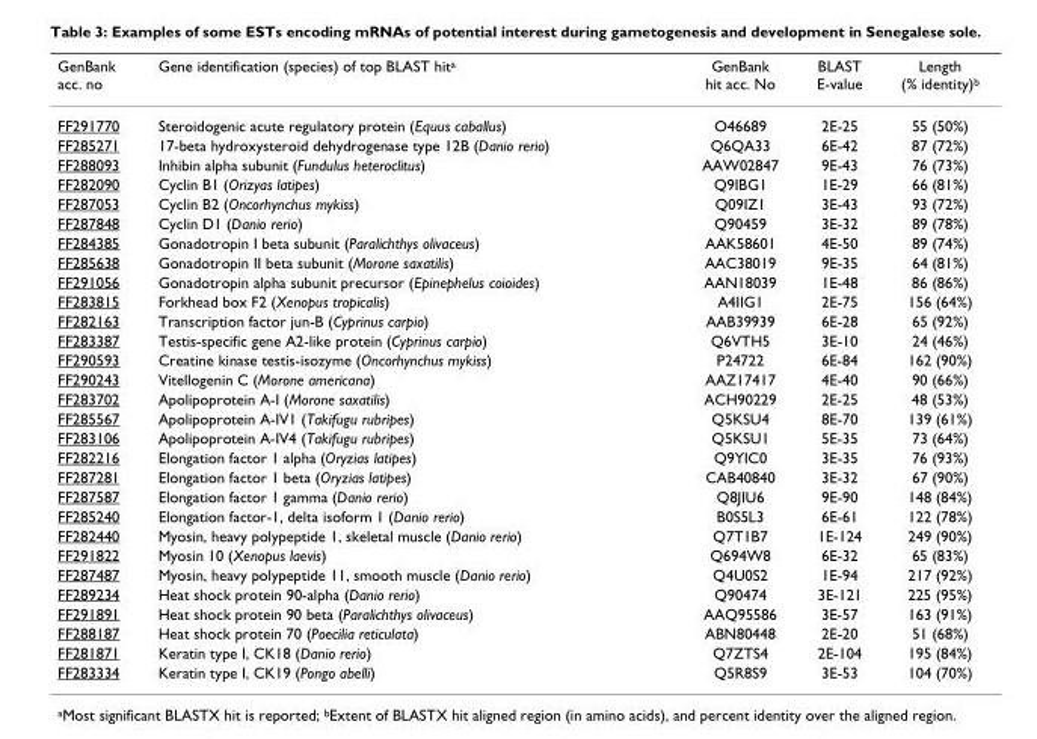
<table><thead><tr><td>GenBank acc. no</td><td>Gene identification (species) of top BLAST hit<sup>a</sup></td><td>GenBank hit acc. No</td><td>BLAST E-value</td><td>Length (% identity)<sup>b</sup></td></tr></thead><tbody><tr><td>FF291770</td><td>Steroidogenic acute regulatory protein (Equus caballus)</td><td>O46689</td><td>2E-25</td><td>55 (50%)</td></tr><tr><td>FF285271</td><td>17-beta hydroxysteroid dehydrogenase type 12B (Danio rerio)</td><td>Q6QA33</td><td>6E-42</td><td>87 (72%)</td></tr><tr><td>FF288093</td><td>Inhibin alpha subunit (Fundulus heteroclitus)</td><td>AAW02847</td><td>9E-43</td><td>76 (73%)</td></tr><tr><td>FF282090</td><td>Cyclin B1 (Orizyas latipes)</td><td>Q9IBG1</td><td>1E-29</td><td>66 (81%)</td></tr><tr><td>FF287053</td><td>Cyclin B2 (Oncorhynchus mykiss)</td><td>Q09IZ1</td><td>3E-43</td><td>93 (72%)</td></tr><tr><td>FF287848</td><td>Cyclin D1 (Danio rerio)</td><td>Q90459</td><td>3E-32</td><td>89 (78%)</td></tr><tr><td>FF284385</td><td>Gonadotropin I beta subunit (Paralichthys olivaceus)</td><td>AAK58601</td><td>4E-50</td><td>89 (74%)</td></tr><tr><td>FF285638</td><td>Gonadotropin II beta subunit (Morone saxatilis)</td><td>AAC38019</td><td>9E-35</td><td>64 (81%)</td></tr><tr><td>FF291056</td><td>Gonadotropin alpha subunit precursor (Epinephelus coioides)</td><td>AAN18039</td><td>1E-48</td><td>86 (86%)</td></tr><tr><td>FF283815</td><td>Forkhead box F2 (Xenopus tropicalis)</td><td>A4IIG1</td><td>2E-75</td><td>156 (64%)</td></tr><tr><td>FF282163</td><td>Transcription factor jun-B (Cyprinus carpio)</td><td>AAB39939</td><td>6E-28</td><td>65 (92%)</td></tr><tr><td>FF283387</td><td>Testis-specific gene A2-like protein (Cyprinus carpio)</td><td>Q6VTH5</td><td>3E-10</td><td>24 (46%)</td></tr><tr><td>FF290593</td><td>Creatine kinase testis-isozyme (Oncorhynchus mykiss)</td><td>P24722</td><td>6E-84</td><td>162 (90%)</td></tr><tr><td>FF290243</td><td>Vitellogenin C (Morone americana)</td><td>AAZ17417</td><td>4E-40</td><td>90 (66%)</td></tr><tr><td>FF283702</td><td>Apolipoprotein A-I (Morone saxatilis)</td><td>ACH90229</td><td>2E-25</td><td>48 (53%)</td></tr><tr><td>FF285567</td><td>Apolipoprotein A-IV1 (Takifugu rubripes)</td><td>Q5KSU4</td><td>8E-70</td><td>139 (61%)</td></tr><tr><td>FF283106</td><td>Apolipoprotein A-IV4 (Takifugu rubripes)</td><td>Q5KSU1</td><td>5E-35</td><td>73 (64%)</td></tr><tr><td>FF282216</td><td>Elongation factor 1 alpha (Oryzias latipes)</td><td>Q9YIC0</td><td>3E-35</td><td>76 (93%)</td></tr><tr><td>FF287281</td><td>Elongation factor 1 beta (Oryzias latipes)</td><td>CAB40840</td><td>3E-32</td><td>67 (90%)</td></tr><tr><td>FF287587</td><td>Elongation factor 1 gamma (Danio rerio)</td><td>Q8JIU6</td><td>9E-90</td><td>148 (84%)</td></tr><tr><td>FF285240</td><td>Elongation factor-1, delta isoform 1 (Danio rerio)</td><td>B0S5L3</td><td>6E-61</td><td>122 (78%)</td></tr><tr><td>FF282440</td><td>Myosin, heavy polypeptide 1, skeletal muscle (Danio rerio)</td><td>Q7T1B7</td><td>1E-124</td><td>249 (90%)</td></tr><tr><td>FF291822</td><td>Myosin 10 (Xenopus laevis)</td><td>Q694W8</td><td>6E-32</td><td>65 (83%)</td></tr><tr><td>FF287487</td><td>Myosin, heavy polypeptide 11, smooth muscle (Danio rerio)</td><td>Q4U0S2</td><td>1E-94</td><td>217 (92%)</td></tr><tr><td>FF289234</td><td>Heat shock protein 90-alpha (Danio rerio)</td><td>Q90474</td><td>3E-121</td><td>225 (95%)</td></tr><tr><td>FF291891</td><td>Heat shock protein 90 beta (Paralichthys olivaceus)</td><td>AAQ95586</td><td>3E-57</td><td>163 (91%)</td></tr><tr><td>FF288187</td><td>Heat shock protein 70 (Poecilia reticulata)</td><td>ABN80448</td><td>2E-20</td><td>51 (68%)</td></tr><tr><td>FF281871</td><td>Keratin type I, CK18 (Danio rerio)</td><td>Q7ZTS4</td><td>2E-104</td><td>195 (84%)</td></tr><tr><td>FF283334</td><td>Keratin type I, CK19 (Pongo abelli)</td><td>Q5R8S9</td><td>3E-53</td><td>104 (70%)</td></tr></tbody></table>